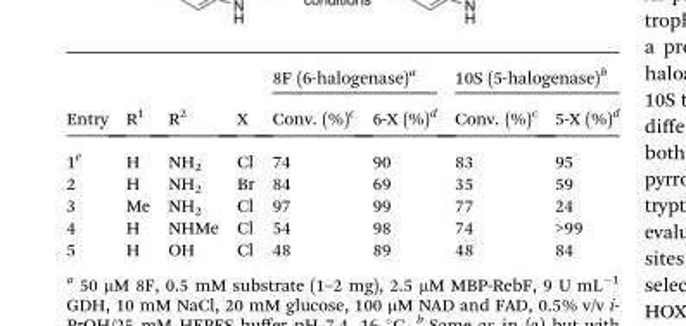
<table><thead><tr><td rowspan="2">Entry</td><td rowspan="2">R<sup>1</sup></td><td rowspan="2">R<sup>2</sup></td><td rowspan="2">X</td><td colspan="2">8F (6-halogenase)<sup>a</sup></td><td colspan="2">10S (5-halogenase)<sup>b</sup></td></tr><tr><td>Conv. (%)<sup>c</sup></td><td>6-X (%)<sup>d</sup></td><td>Conv. (%)<sup>c</sup></td><td>5-X (%)<sup>d</sup></td></tr></thead><tbody><tr><td>1<sup>e</sup></td><td>H</td><td>NH<sub>2</sub></td><td>Cl</td><td>74</td><td>90</td><td>83</td><td>95</td></tr><tr><td>2</td><td>H</td><td>NH<sub>2</sub></td><td>Br</td><td>84</td><td>69</td><td>35</td><td>59</td></tr><tr><td>3</td><td>Me</td><td>NH<sub>2</sub></td><td>Cl</td><td>97</td><td>99</td><td>77</td><td>24</td></tr><tr><td>4</td><td>H</td><td>NHMe</td><td>Cl</td><td>54</td><td>98</td><td>74</td><td>&gt;99</td></tr><tr><td>5</td><td>H</td><td>OH</td><td>Cl</td><td>48</td><td>89</td><td>48</td><td>84</td></tr></tbody></table>